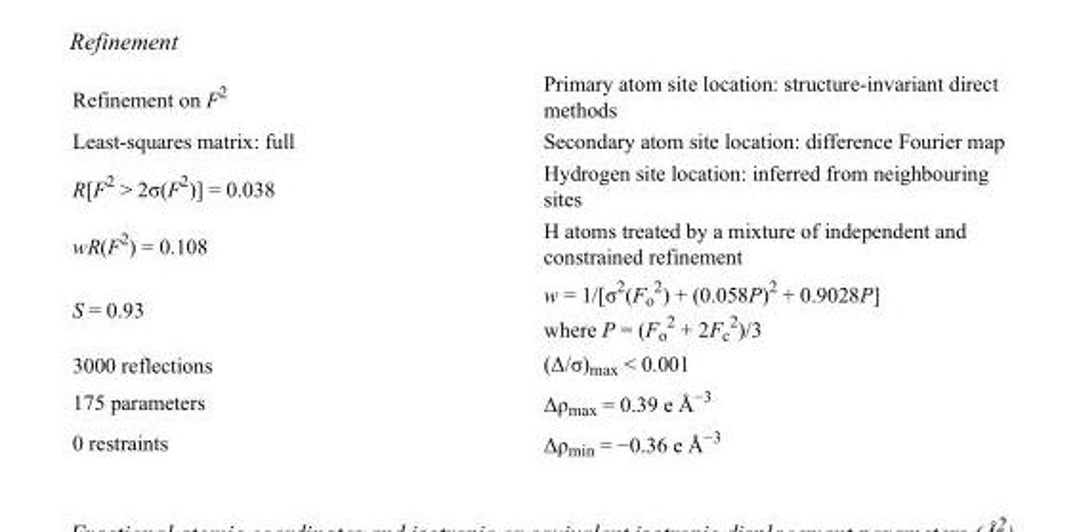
<table><tbody><tr><td>Refinement on F<sup>2</sup></td><td>Primary atom site location: structure-invariant direct methods</td></tr><tr><td>Least-squares matrix: full</td><td>Secondary atom site location: difference Fourier map</td></tr><tr><td>R[F<sup>2</sup> &gt; 2σ(F<sup>2</sup>)] = 0.038</td><td>Hydrogen site location: inferred from neighbouring sites</td></tr><tr><td>wR(F<sup>2</sup>) = 0.108</td><td>H atoms treated by a mixture of independent and constrained refinement</td></tr><tr><td>S = 0.93</td><td>w = 1/[σ<sup>2</sup>(F<sub>o</sub> <sup>2</sup>) + (0.058P)<sup>2</sup> + 0.9028P] where P = (F<sub>o</sub> <sup>2</sup> + 2F<sub>c</sub> <sup>2</sup>)/3</td></tr><tr><td>3000 reflections</td><td>(Δ/σ)<sub>max</sub> &lt; 0.001</td></tr><tr><td>175 parameters</td><td>Δρ<sub>max</sub> = 0.39 e Å<sup>−3</sup></td></tr><tr><td>0 restraints</td><td>Δρ<sub>min</sub> = −0.36 e Å<sup>−3</sup></td></tr></tbody></table>